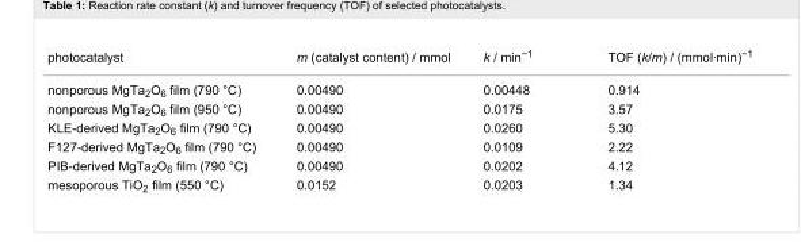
<table><tbody><tr><td>photocatalyst</td><td>m (catalyst content) / mmol</td><td>k / min<sup>−1</sup></td><td>TOF (k/m) / (mmol·min)<sup>−1</sup></td></tr><tr><td>nonporous MgTa<sub>2</sub>O<sub>6</sub> film (790 °C)</td><td>0.00490</td><td>0.00448</td><td>0.914</td></tr><tr><td>nonporous MgTa<sub>2</sub>O<sub>6</sub> film (950 °C)</td><td>0.00490</td><td>0.0175</td><td>3.57</td></tr><tr><td>KLE-derived MgTa<sub>2</sub>O<sub>6</sub> film (790 °C)</td><td>0.00490</td><td>0.0260</td><td>5.30</td></tr><tr><td>F127-derived MgTa<sub>2</sub>O<sub>6</sub> film (790 °C)</td><td>0.00490</td><td>0.0109</td><td>2.22</td></tr><tr><td>PIB-derived MgTa<sub>2</sub>O<sub>6</sub> film (790 °C)</td><td>0.00490</td><td>0.0202</td><td>4.12</td></tr><tr><td>mesoporous TiO<sub>2</sub> film (550 °C)</td><td>0.0152</td><td>0.0203</td><td>1.34</td></tr></tbody></table>